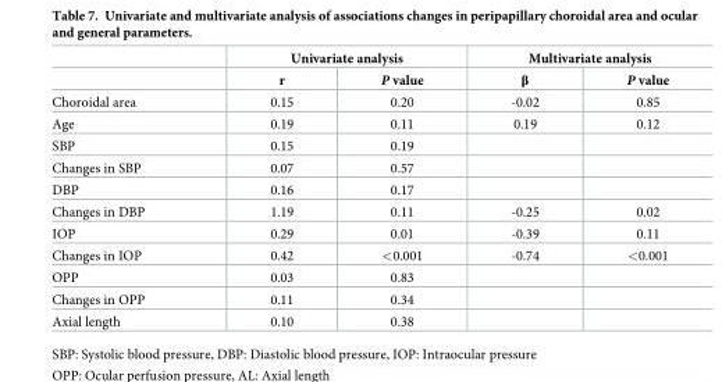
<table><thead><tr><td rowspan="2"></td><td colspan="2">Univariate analysis</td><td colspan="2">Multivariate analysis</td></tr><tr><td>r</td><td>P value</td><td>β</td><td>P value</td></tr></thead><tbody><tr><td>Choroidal area</td><td>0.15</td><td>0.20</td><td>-0.02</td><td>0.85</td></tr><tr><td>Age</td><td>0.19</td><td>0.11</td><td>0.19</td><td>0.12</td></tr><tr><td>SBP</td><td>0.15</td><td>0.19</td><td></td><td></td></tr><tr><td>Changes in SBP</td><td>0.07</td><td>0.57</td><td></td><td></td></tr><tr><td>DBP</td><td>0.16</td><td>0.17</td><td></td><td></td></tr><tr><td>Changes in DBP</td><td>1.19</td><td>0.11</td><td>-0.25</td><td>0.02</td></tr><tr><td>IOP</td><td>0.29</td><td>0.01</td><td>-0.39</td><td>0.11</td></tr><tr><td>Changes in IOP</td><td>0.42</td><td>&lt;0.001</td><td>-0.74</td><td>&lt;0.001</td></tr><tr><td>OPP</td><td>0.03</td><td>0.83</td><td></td><td></td></tr><tr><td>Changes in OPP</td><td>0.11</td><td>0.34</td><td></td><td></td></tr><tr><td>Axial length</td><td>0.10</td><td>0.38</td><td></td><td></td></tr></tbody></table>